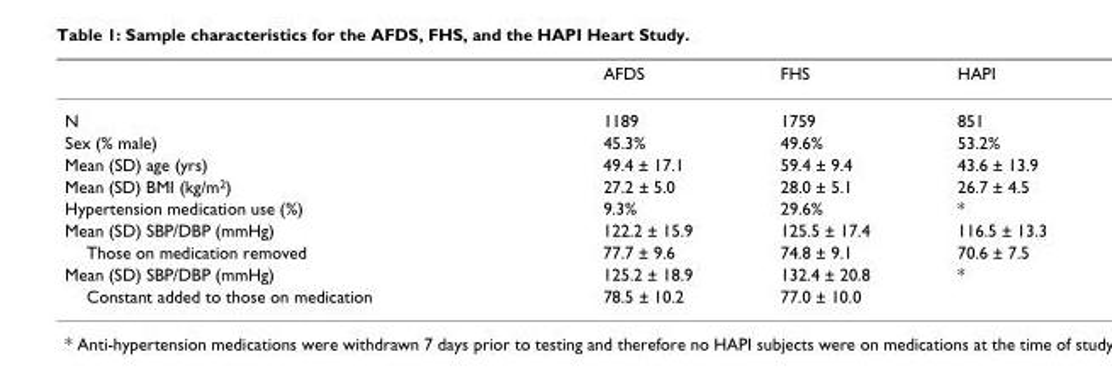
<table><thead><tr><td></td><td>AFDS</td><td>FHS</td><td>HAPI</td></tr></thead><tbody><tr><td>N</td><td>1189</td><td>1759</td><td>851</td></tr><tr><td>Sex (% male)</td><td>45.3%</td><td>49.6%</td><td>53.2%</td></tr><tr><td>Mean (SD) age (yrs)</td><td>49.4 ± 17.1</td><td>59.4 ± 9.4</td><td>43.6 ± 13.9</td></tr><tr><td>Mean (SD) BMI (kg/m<sup>2</sup>)</td><td>27.2 ± 5.0</td><td>28.0 ± 5.1</td><td>26.7 ± 4.5</td></tr><tr><td>Hypertension medication use (%)</td><td>9.3%</td><td>29.6%</td><td>*</td></tr><tr><td>Mean (SD) SBP/DBP (mmHg)</td><td>122.2 ± 15.9</td><td>125.5 ± 17.4</td><td>116.5 ± 13.3</td></tr><tr><td>Those on medication removed</td><td>77.7 ± 9.6</td><td>74.8 ± 9.1</td><td>70.6 ± 7.5</td></tr><tr><td>Mean (SD) SBP/DBP (mmHg)</td><td>125.2 ± 18.9</td><td>132.4 ± 20.8</td><td>*</td></tr><tr><td>Constant added to those on medication</td><td>78.5 ± 10.2</td><td>77.0 ± 10.0</td><td></td></tr></tbody></table>